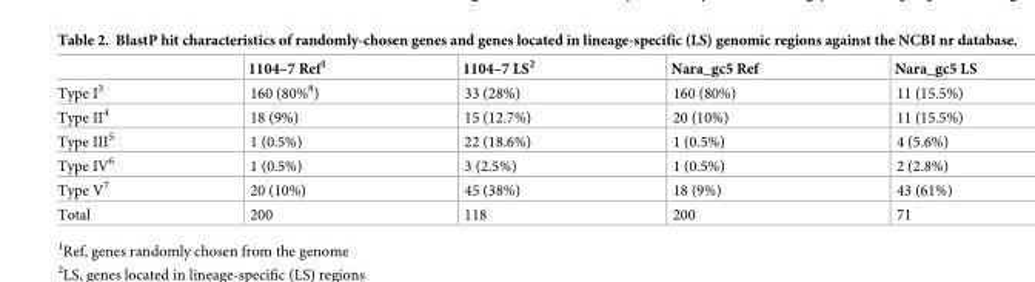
<table><thead><tr><td></td><td>1104–7 Ref<sup>1</sup></td><td>1104–7 LS<sup>2</sup></td><td>Nara_gc5 Ref</td><td>Nara_gc5 LS</td></tr></thead><tbody><tr><td>Type I<sup>3</sup></td><td>160 (80%<sup>8</sup>)</td><td>33 (28%)</td><td>160 (80%)</td><td>11 (15.5%)</td></tr><tr><td>Type II<sup>4</sup></td><td>18 (9%)</td><td>15 (12.7%)</td><td>20 (10%)</td><td>11 (15.5%)</td></tr><tr><td>Type III<sup>5</sup></td><td>1 (0.5%)</td><td>22 (18.6%)</td><td>1 (0.5%)</td><td>4 (5.6%)</td></tr><tr><td>Type IV<sup>6</sup></td><td>1 (0.5%)</td><td>3 (2.5%)</td><td>1 (0.5%)</td><td>2 (2.8%)</td></tr><tr><td>Type V<sup>7</sup></td><td>20 (10%)</td><td>45 (38%)</td><td>18 (9%)</td><td>43 (61%)</td></tr><tr><td>Total</td><td>200</td><td>118</td><td>200</td><td>71</td></tr></tbody></table>